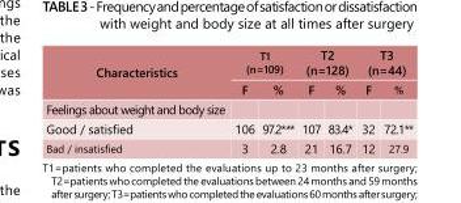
<table><tbody><tr><td rowspan="2">Characteristics</td><td colspan="2">T1 (n=109)</td><td colspan="2">T2 (n=128)</td><td colspan="2">T3 (n=44)</td></tr><tr><td>F</td><td>%</td><td>F</td><td>%</td><td>F</td><td>%</td></tr><tr><td colspan="7">Feelings about weight and body size</td></tr><tr><td>Good / satisfied</td><td>106</td><td>97.2*.**</td><td>107</td><td>83.4*</td><td>32</td><td>72.1**</td></tr><tr><td>Bad / insatisfied</td><td>3</td><td>2.8</td><td>21</td><td>16.7</td><td>12</td><td>27.9</td></tr></tbody></table>